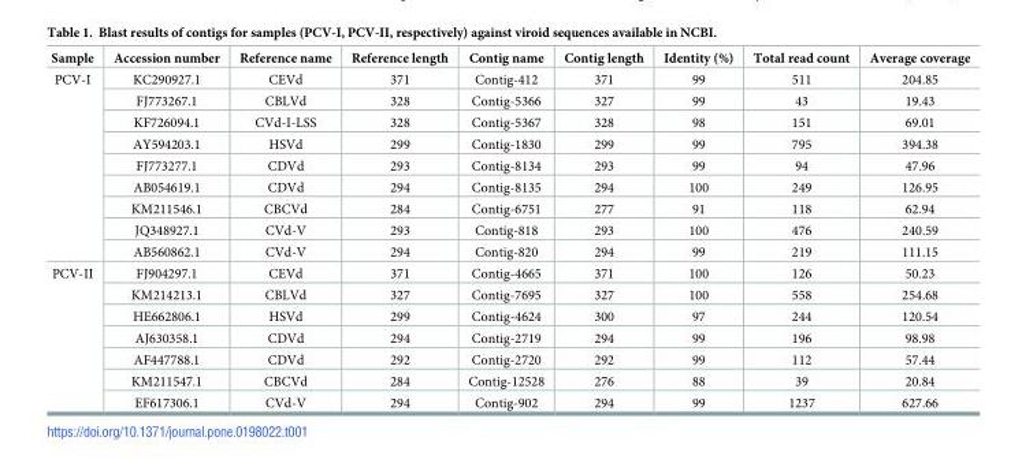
<table><thead><tr><td>Sample</td><td>Accession number</td><td>Reference name</td><td>Reference length</td><td>Contig name</td><td>Contig length</td><td>Identity (%)</td><td>Total read count</td><td>Average coverage</td></tr></thead><tbody><tr><td rowspan="9">PCV-I</td><td>KC290927.1</td><td>CEVd</td><td>371</td><td>Contig-412</td><td>371</td><td>99</td><td>511</td><td>204.85</td></tr><tr><td>FJ773267.1</td><td>CBLVd</td><td>328</td><td>Contig-5366</td><td>327</td><td>99</td><td>43</td><td>19.43</td></tr><tr><td>KF726094.1</td><td>CVd-I-LSS</td><td>328</td><td>Contig-5367</td><td>328</td><td>98</td><td>151</td><td>69.01</td></tr><tr><td>AY594203.1</td><td>HSVd</td><td>299</td><td>Contig-1830</td><td>299</td><td>99</td><td>795</td><td>394.38</td></tr><tr><td>FJ773277.1</td><td>CDVd</td><td>293</td><td>Contig-8134</td><td>293</td><td>99</td><td>94</td><td>47.96</td></tr><tr><td>AB054619.1</td><td>CDVd</td><td>294</td><td>Contig-8135</td><td>294</td><td>100</td><td>249</td><td>126.95</td></tr><tr><td>KM211546.1</td><td>CBCVd</td><td>284</td><td>Contig-6751</td><td>277</td><td>91</td><td>118</td><td>62.94</td></tr><tr><td>JQ348927.1</td><td>CVd-V</td><td>293</td><td>Contig-818</td><td>293</td><td>100</td><td>476</td><td>240.59</td></tr><tr><td>AB560862.1</td><td>CVd-V</td><td>294</td><td>Contig-820</td><td>294</td><td>99</td><td>219</td><td>111.15</td></tr><tr><td rowspan="7">PCV-II</td><td>FJ904297.1</td><td>CEVd</td><td>371</td><td>Contig-4665</td><td>371</td><td>100</td><td>126</td><td>50.23</td></tr><tr><td>KM214213.1</td><td>CBLVd</td><td>327</td><td>Contig-7695</td><td>327</td><td>100</td><td>558</td><td>254.68</td></tr><tr><td>HE662806.1</td><td>HSVd</td><td>299</td><td>Contig-4624</td><td>300</td><td>97</td><td>244</td><td>120.54</td></tr><tr><td>AJ630358.1</td><td>CDVd</td><td>294</td><td>Contig-2719</td><td>294</td><td>99</td><td>196</td><td>98.98</td></tr><tr><td>AF447788.1</td><td>CDVd</td><td>292</td><td>Contig-2720</td><td>292</td><td>99</td><td>112</td><td>57.44</td></tr><tr><td>KM211547.1</td><td>CBCVd</td><td>284</td><td>Contig-12528</td><td>276</td><td>88</td><td>39</td><td>20.84</td></tr><tr><td>EF617306.1</td><td>CVd-V</td><td>294</td><td>Contig-902</td><td>294</td><td>99</td><td>1237</td><td>627.66</td></tr></tbody></table>